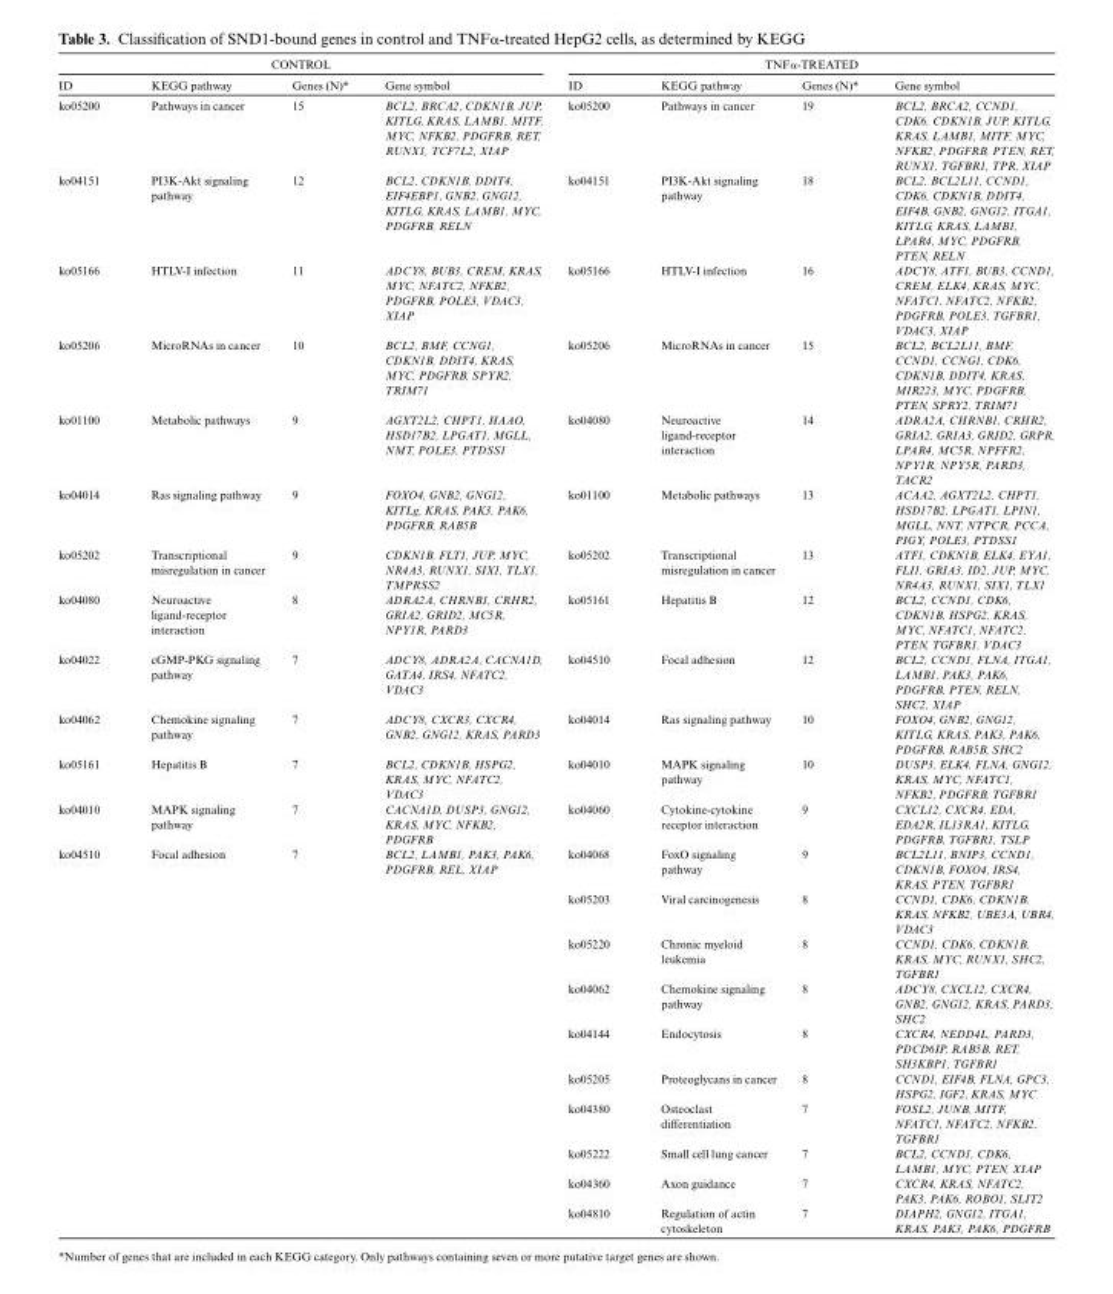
<table><thead><tr><td colspan="4">CONTROL</td><td colspan="4">TNFα-TREATED</td></tr><tr><td>ID</td><td>KEGG pathway</td><td>Genes (N)*</td><td>Gene symbol</td><td>ID</td><td>KEGG pathway</td><td>Genes (N)*</td><td>Gene symbol</td></tr></thead><tbody><tr><td>ko05200</td><td>Pathways in cancer</td><td>15</td><td>BCL2, BRCA2, CDKN1B, JUP, KITLG, KRAS, LAMB1, MITF, MYC, NFKB2, PDGFRB, RET, RUNX1, TCF7L2, XIAP</td><td>ko05200</td><td>Pathways in cancer</td><td>19</td><td>BCL2, BRCA2, CCND1, CDK6, CDKN1B, JUP, KITLG, KRAS, LAMB1, MITF, MYC, NFKB2, PDGFRB, PTEN, RET, RUNX1, TGFBR1, TPR, XIAP</td></tr><tr><td>ko04151</td><td>PI3K-Akt signaling pathway</td><td>12</td><td>BCL2, CDKN1B, DDIT4, EIF4EBP1, GNB2, GNG12, KITLG, KRAS, LAMB1, MYC, PDGFRB, RELN</td><td>ko04151</td><td>PI3K-Akt signaling pathway</td><td>18</td><td>BCL2, BCL2L11, CCND1, CDK6, CDKN1B, DDIT4, EIF4B, GNB2, GNG12, ITGA1, KITLG, KRAS, LAMB1, LPAR4, MYC, PDGFRB, PTEN, RELN</td></tr><tr><td>ko05166</td><td>HTLV-I infection</td><td>11</td><td>ADCY8, BUB3, CREM, KRAS, MYC, NFATC2, NFKB2, PDGFRB, POLE3, VDAC3, XIAP</td><td>ko05166</td><td>HTLV-I infection</td><td>16</td><td>ADCY8, ATF1, BUB3, CCND1, CREM, ELK4, KRAS, MYC, NFATC1, NFATC2, NFKB2, PDGFRB, POLE3, TGFBR1, VDAC3, XIAP</td></tr><tr><td>ko05206</td><td>MicroRNAs in cancer</td><td>10</td><td>BCL2, BMF, CCNG1, CDKN1B, DDIT4, KRAS, MYC, PDGFRB, SPYR2, TRIM71</td><td>ko05206</td><td>MicroRNAs in cancer</td><td>15</td><td>BCL2, BCL2L11, BMF, CCND1, CCNG1, CDK6, CDKN1B, DDIT4, KRAS, MIR223, MYC, PDGFRB, PTEN, SPRY2, TRIM71</td></tr><tr><td>ko01100</td><td>Metabolic pathways</td><td>9</td><td>AGXT2L2, CHPT1, HAAO, HSD17B2, LPGAT1, MGLL, NMT, POLE3, PTDSS1</td><td>ko04080</td><td>Neuroactive ligand-receptor interaction</td><td>14</td><td>ADRA2A, CHRNB1, CRHR2, GRIA2, GRIA3, GRID2, GRPR, LPAR4, MC5R, NPFFR2, NPY1R, NPY5R, PARD3, TACR2</td></tr><tr><td>ko04014</td><td>Ras signaling pathway</td><td>9</td><td>FOXO4, GNB2, GNG12, KITLg, KRAS, PAK3, PAK6, PDGFRB, RAB5B</td><td>ko01100</td><td>Metabolic pathways</td><td>13</td><td>ACAA2, AGXT2L2, CHPT1, HSD17B2, LPGAT1, LPIN1, MGLL, NNT, NTPCR, PCCA, PIGY, POLE3, PTDSS1</td></tr><tr><td>ko05202</td><td>Transcriptional misregulation in cancer</td><td>9</td><td>CDKN1B, FLT1, JUP, MYC, NR4A3, RUNX1, SIX1, TLX1, TMPRSS2</td><td>ko05202</td><td>Transcriptional misregulation in cancer</td><td>13</td><td>ATF1, CDKN1B, ELK4, EYA1, FLI1, GRIA3, ID2, JUP, MYC, NR4A3, RUNX1, SIX1, TLX1</td></tr><tr><td>ko04080</td><td>Neuroactive ligand-receptor interaction</td><td>8</td><td>ADRA2A, CHRNB1, CRHR2, GRIA2, GRID2, MC5R, NPY1R, PARD3</td><td>ko05161</td><td>Hepatitis B</td><td>12</td><td>BCL2, CCND1, CDK6, CDKN1B, HSPG2, KRAS, MYC, NFATC1, NFATC2, PTEN, TGFBR1, VDAC3</td></tr><tr><td>ko04022</td><td>cGMP-PKG signaling pathway</td><td>7</td><td>ADCY8, ADRA2A, CACNA1D, GATA4, IRS4, NFATC2, VDAC3</td><td>ko04510</td><td>Focal adhesion</td><td>12</td><td>BCL2, CCND1, FLNA, ITGA1, LAMB1, PAK3, PAK6, PDGFRB, PTEN, RELN, SHC2, XIAP</td></tr><tr><td>ko04062</td><td>Chemokine signaling pathway</td><td>7</td><td>ADCY8, CXCR3, CXCR4, GNB2, GNG12, KRAS, PARD3</td><td>ko04014</td><td>Ras signaling pathway</td><td>10</td><td>FOXO4, GNB2, GNG12, KITLG, KRAS, PAK3, PAK6, PDGFRB, RAB5B, SHC2</td></tr><tr><td>ko05161</td><td>Hepatitis B</td><td>7</td><td>BCL2, CDKN1B, HSPG2, KRAS, MYC, NFATC2, VDAC3</td><td>ko04010</td><td>MAPK signaling pathway</td><td>10</td><td>DUSP3, ELK4, FLNA, GNG12, KRAS, MYC, NFATC1, NFKB2, PDGFRB, TGFBR1</td></tr><tr><td>ko04010</td><td>MAPK signaling pathway</td><td>7</td><td>CACNA1D, DUSP3, GNG12, KRAS, MYC, NFKB2, PDGFRB</td><td>ko04060</td><td>Cytokine-cytokine receptor interaction</td><td>9</td><td>CXCL12, CXCR4, EDA, EDA2R, IL13RA1, KITLG, PDGFRB, TGFBR1, TSLP</td></tr><tr><td rowspan="10">ko04510</td><td>Focal adhesion</td><td>7</td><td>BCL2, LAMB1, PAK3, PAK6, PDGFRB, REL, XIAP</td><td>ko04068</td><td>FoxO signaling pathway</td><td>9</td><td>BCL2L11, BNIP3, CCND1, CDKN1B, FOXO4, IRS4, KRAS, PTEN, TGFBR1</td></tr><tr><td></td><td></td><td></td><td>ko05203</td><td>Viral carcinogenesis</td><td>8</td><td>CCND1, CDK6, CDKN1B, KRAS, NFKB2, UBE3A, UBR4, VDAC3</td></tr><tr><td></td><td></td><td></td><td>ko05220</td><td>Chronic myeloid leukemia</td><td>8</td><td>CCND1, CDK6, CDKN1B, KRAS, MYC, RUNX1, SHC2, TGFBR1</td></tr><tr><td></td><td></td><td></td><td>ko04062</td><td>Chemokine signaling pathway</td><td>8</td><td>ADCY8, CXCL12, CXCR4, GNB2, GNG12, KRAS, PARD3, SHC2</td></tr><tr><td></td><td></td><td></td><td>ko04144</td><td>Endocytosis</td><td>8</td><td>CXCR4, NEDD4L, PARD3, PDCD6IP, RAB5B, RET, SH3KBP1, TGFBR1</td></tr><tr><td></td><td></td><td></td><td>ko05205</td><td>Proteoglycans in cancer</td><td>8</td><td>CCND1, EIF4B, FLNA, GPC3, HSPG2, IGF2, KRAS, MYC</td></tr><tr><td></td><td></td><td></td><td>ko04380</td><td>Osteoclast differentiation</td><td>7</td><td>FOSL2, JUNB, MITF, NFATC1, NFATC2, NFKB2, TGFBR1</td></tr><tr><td></td><td></td><td></td><td>ko05222</td><td>Small cell lung cancer</td><td>7</td><td>BCL2, CCND1, CDK6, LAMB1, MYC, PTEN, XIAP</td></tr><tr><td></td><td></td><td></td><td>ko04360</td><td>Axon guidance</td><td>7</td><td>CXCR4, KRAS, NFATC2, PAK3, PAK6, ROBO1, SLIT2</td></tr><tr><td></td><td></td><td></td><td>ko04810</td><td>Regulation of actin cytoskeleton</td><td>7</td><td>DIAPH2, GNG12, ITGA1, KRAS, PAK3, PAK6, PDGFRB</td></tr></tbody></table>